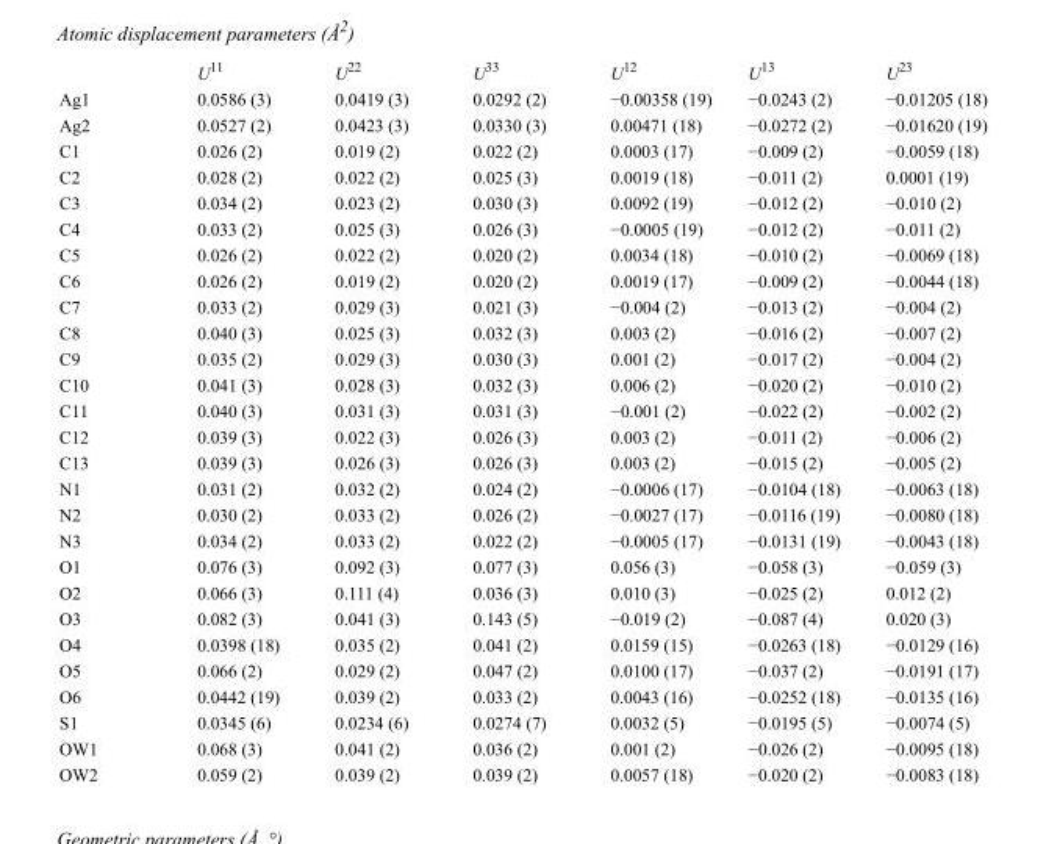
<table><thead><tr><td></td><td>U<sup>11</sup></td><td>U<sup>22</sup></td><td>U<sup>33</sup></td><td>U<sup>12</sup></td><td>U<sup>13</sup></td><td>U<sup>23</sup></td></tr></thead><tbody><tr><td>Ag1</td><td>0.0586 (3)</td><td>0.0419 (3)</td><td>0.0292 (2)</td><td>−0.00358 (19)</td><td>−0.0243 (2)</td><td>−0.01205 (18)</td></tr><tr><td>Ag2</td><td>0.0527 (2)</td><td>0.0423 (3)</td><td>0.0330 (3)</td><td>0.00471 (18)</td><td>−0.0272 (2)</td><td>−0.01620 (19)</td></tr><tr><td>C1</td><td>0.026 (2)</td><td>0.019 (2)</td><td>0.022 (2)</td><td>0.0003 (17)</td><td>−0.009 (2)</td><td>−0.0059 (18)</td></tr><tr><td>C2</td><td>0.028 (2)</td><td>0.022 (2)</td><td>0.025 (3)</td><td>0.0019 (18)</td><td>−0.011 (2)</td><td>0.0001 (19)</td></tr><tr><td>C3</td><td>0.034 (2)</td><td>0.023 (2)</td><td>0.030 (3)</td><td>0.0092 (19)</td><td>−0.012 (2)</td><td>−0.010 (2)</td></tr><tr><td>C4</td><td>0.033 (2)</td><td>0.025 (3)</td><td>0.026 (3)</td><td>−0.0005 (19)</td><td>−0.012 (2)</td><td>−0.011 (2)</td></tr><tr><td>C5</td><td>0.026 (2)</td><td>0.022 (2)</td><td>0.020 (2)</td><td>0.0034 (18)</td><td>−0.010 (2)</td><td>−0.0069 (18)</td></tr><tr><td>C6</td><td>0.026 (2)</td><td>0.019 (2)</td><td>0.020 (2)</td><td>0.0019 (17)</td><td>−0.009 (2)</td><td>−0.0044 (18)</td></tr><tr><td>C7</td><td>0.033 (2)</td><td>0.029 (3)</td><td>0.021 (3)</td><td>−0.004 (2)</td><td>−0.013 (2)</td><td>−0.004 (2)</td></tr><tr><td>C8</td><td>0.040 (3)</td><td>0.025 (3)</td><td>0.032 (3)</td><td>0.003 (2)</td><td>−0.016 (2)</td><td>−0.007 (2)</td></tr><tr><td>C9</td><td>0.035 (2)</td><td>0.029 (3)</td><td>0.030 (3)</td><td>0.001 (2)</td><td>−0.017 (2)</td><td>−0.004 (2)</td></tr><tr><td>C10</td><td>0.041 (3)</td><td>0.028 (3)</td><td>0.032 (3)</td><td>0.006 (2)</td><td>−0.020 (2)</td><td>−0.010 (2)</td></tr><tr><td>C11</td><td>0.040 (3)</td><td>0.031 (3)</td><td>0.031 (3)</td><td>−0.001 (2)</td><td>−0.022 (2)</td><td>−0.002 (2)</td></tr><tr><td>C12</td><td>0.039 (3)</td><td>0.022 (3)</td><td>0.026 (3)</td><td>0.003 (2)</td><td>−0.011 (2)</td><td>−0.006 (2)</td></tr><tr><td>C13</td><td>0.039 (3)</td><td>0.026 (3)</td><td>0.026 (3)</td><td>0.003 (2)</td><td>−0.015 (2)</td><td>−0.005 (2)</td></tr><tr><td>N1</td><td>0.031 (2)</td><td>0.032 (2)</td><td>0.024 (2)</td><td>−0.0006 (17)</td><td>−0.0104 (18)</td><td>−0.0063 (18)</td></tr><tr><td>N2</td><td>0.030 (2)</td><td>0.033 (2)</td><td>0.026 (2)</td><td>−0.0027 (17)</td><td>−0.0116 (19)</td><td>−0.0080 (18)</td></tr><tr><td>N3</td><td>0.034 (2)</td><td>0.033 (2)</td><td>0.022 (2)</td><td>−0.0005 (17)</td><td>−0.0131 (19)</td><td>−0.0043 (18)</td></tr><tr><td>O1</td><td>0.076 (3)</td><td>0.092 (3)</td><td>0.077 (3)</td><td>0.056 (3)</td><td>−0.058 (3)</td><td>−0.059 (3)</td></tr><tr><td>O2</td><td>0.066 (3)</td><td>0.111 (4)</td><td>0.036 (3)</td><td>0.010 (3)</td><td>−0.025 (2)</td><td>0.012 (2)</td></tr><tr><td>O3</td><td>0.082 (3)</td><td>0.041 (3)</td><td>0.143 (5)</td><td>−0.019 (2)</td><td>−0.087 (4)</td><td>0.020 (3)</td></tr><tr><td>O4</td><td>0.0398 (18)</td><td>0.035 (2)</td><td>0.041 (2)</td><td>0.0159 (15)</td><td>−0.0263 (18)</td><td>−0.0129 (16)</td></tr><tr><td>O5</td><td>0.066 (2)</td><td>0.029 (2)</td><td>0.047 (2)</td><td>0.0100 (17)</td><td>−0.037 (2)</td><td>−0.0191 (17)</td></tr><tr><td>O6</td><td>0.0442 (19)</td><td>0.039 (2)</td><td>0.033 (2)</td><td>0.0043 (16)</td><td>−0.0252 (18)</td><td>−0.0135 (16)</td></tr><tr><td>S1</td><td>0.0345 (6)</td><td>0.0234 (6)</td><td>0.0274 (7)</td><td>0.0032 (5)</td><td>−0.0195 (5)</td><td>−0.0074 (5)</td></tr><tr><td>OW1</td><td>0.068 (3)</td><td>0.041 (2)</td><td>0.036 (2)</td><td>0.001 (2)</td><td>−0.026 (2)</td><td>−0.0095 (18)</td></tr><tr><td>OW2</td><td>0.059 (2)</td><td>0.039 (2)</td><td>0.039 (2)</td><td>0.0057 (18)</td><td>−0.020 (2)</td><td>−0.0083 (18)</td></tr></tbody></table>